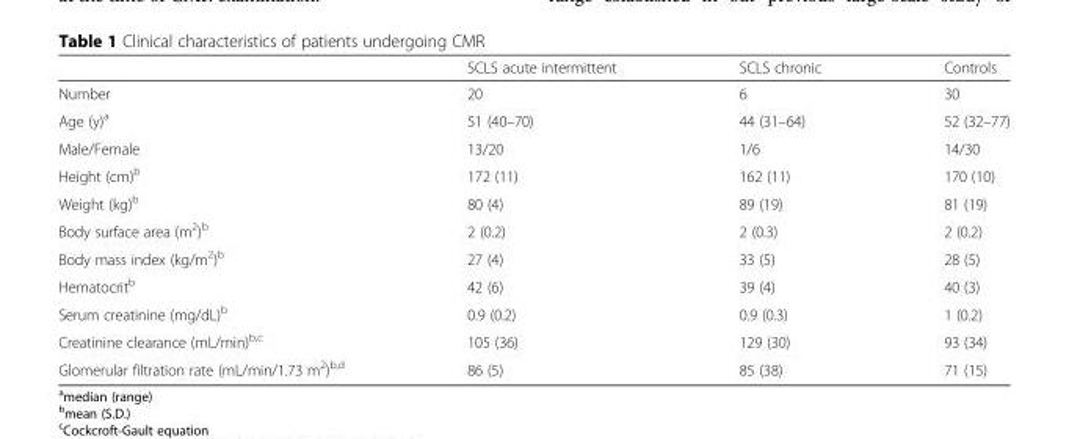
<table><thead><tr><td></td><td>SCLS acute intermittent</td><td>SCLS chronic</td><td>Controls</td></tr></thead><tbody><tr><td>Number</td><td>20</td><td>6</td><td>30</td></tr><tr><td>Age (y)<sup>a</sup></td><td>51 (40–70)</td><td>44 (31–64)</td><td>52 (32–77)</td></tr><tr><td>Male/Female</td><td>13/20</td><td>1/6</td><td>14/30</td></tr><tr><td>Height (cm)<sup>b</sup></td><td>172 (11)</td><td>162 (11)</td><td>170 (10)</td></tr><tr><td>Weight (kg)<sup>b</sup></td><td>80 (4)</td><td>89 (19)</td><td>81 (19)</td></tr><tr><td>Body surface area (m<sup>2</sup>)<sup>b</sup></td><td>2 (0.2)</td><td>2 (0.3)</td><td>2 (0.2)</td></tr><tr><td>Body mass index (kg/m<sup>2</sup>)<sup>b</sup></td><td>27 (4)</td><td>33 (5)</td><td>28 (5)</td></tr><tr><td>Hematocrit<sup>b</sup></td><td>42 (6)</td><td>39 (4)</td><td>40 (3)</td></tr><tr><td>Serum creatinine (mg/dL)<sup>b</sup></td><td>0.9 (0.2)</td><td>0.9 (0.3)</td><td>1 (0.2)</td></tr><tr><td>Creatinine clearance (mL/min)<sup>b,c</sup></td><td>105 (36)</td><td>129 (30)</td><td>93 (34)</td></tr><tr><td>Glomerular filtration rate (mL/min/1.73 m<sup>2</sup>)<sup>b,d</sup></td><td>86 (5)</td><td>85 (38)</td><td>71 (15)</td></tr></tbody></table>